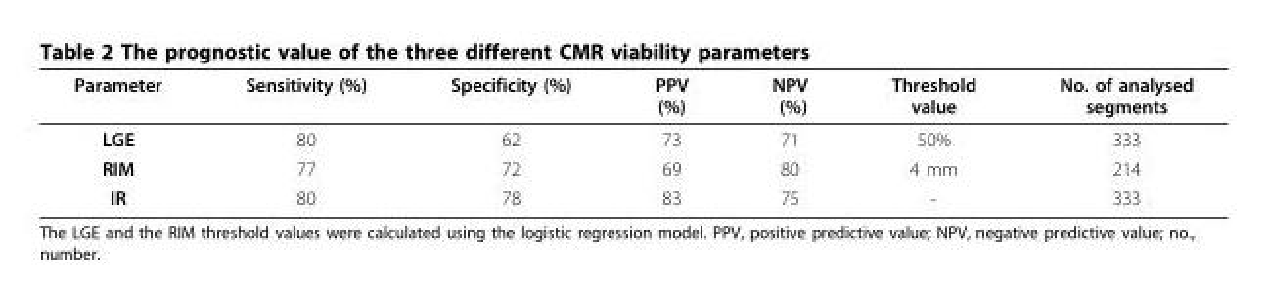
<table><thead><tr><td>Parameter</td><td>Sensitivity (%)</td><td>Specificity (%)</td><td>PPV (%)</td><td>NPV (%)</td><td>Threshold value</td><td>No. of analysed segments</td></tr></thead><tbody><tr><td>LGE</td><td>80</td><td>62</td><td>73</td><td>71</td><td>50%</td><td>333</td></tr><tr><td>RIM</td><td>77</td><td>72</td><td>69</td><td>80</td><td>4 mm</td><td>214</td></tr><tr><td>IR</td><td>80</td><td>78</td><td>83</td><td>75</td><td>-</td><td>333</td></tr></tbody></table>